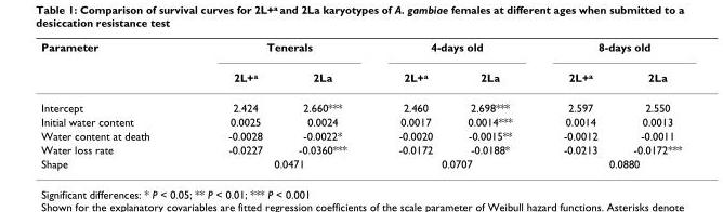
<table><thead><tr><td rowspan="2">Parameter</td><td colspan="2">Tenerals</td><td colspan="2">4-days old</td><td colspan="2">8-days old</td></tr><tr><td>2L+<sup>a</sup></td><td>2La</td><td>2L+<sup>a</sup></td><td>2La</td><td>2L+<sup>a</sup></td><td>2La</td></tr></thead><tbody><tr><td>Intercept</td><td>2.424</td><td>2.660***</td><td>2.460</td><td>2.698***</td><td>2.597</td><td>2.550</td></tr><tr><td>Initial water content</td><td>0.0025</td><td>0.0024</td><td>0.0017</td><td>0.0014***</td><td>0.0014</td><td>0.0013</td></tr><tr><td>Water content at death</td><td>-0.0028</td><td>-0.0022*</td><td>-0.0020</td><td>-0.0015**</td><td>-0.0012</td><td>-0.0011</td></tr><tr><td>Water loss rate</td><td>-0.0227</td><td>-0.0360***</td><td>-0.0172</td><td>-0.0188*</td><td>-0.0213</td><td>-0.0172***</td></tr><tr><td>Shape</td><td colspan="2">0.0471</td><td colspan="2">0.0707</td><td colspan="2">0.0880</td></tr></tbody></table>